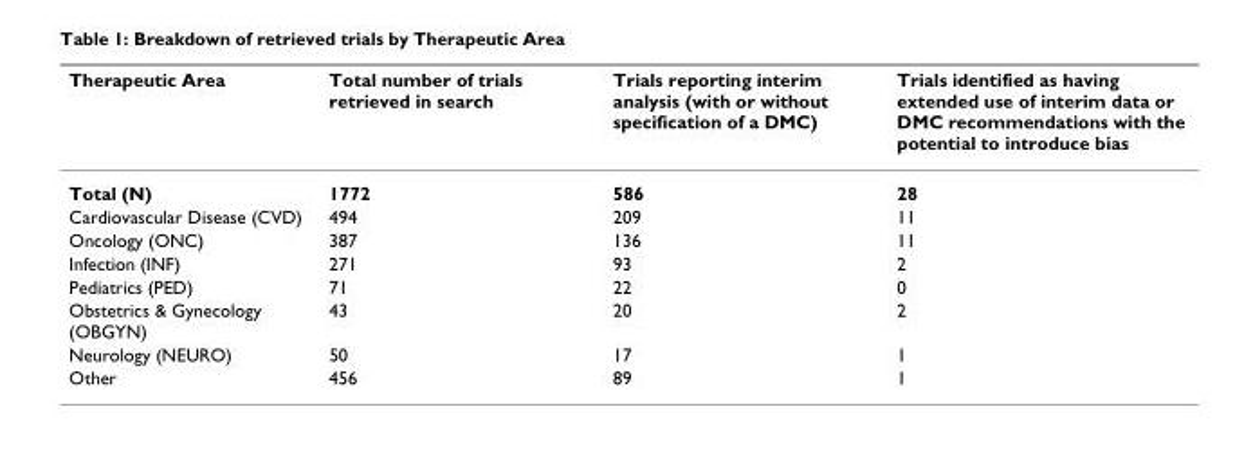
<table><thead><tr><td>Therapeutic Area</td><td>Total number of trials retrieved in search</td><td>Trials reporting interim analysis (with or without specification of a DMC)</td><td>Trials identified as having extended use of interim data or DMC recommendations with the potential to introduce bias</td></tr></thead><tbody><tr><td>Total (N)</td><td>1772</td><td>586</td><td>28</td></tr><tr><td>Cardiovascular Disease (CVD)</td><td>494</td><td>209</td><td>11</td></tr><tr><td>Oncology (ONC)</td><td>387</td><td>136</td><td>11</td></tr><tr><td>Infection (INF)</td><td>271</td><td>93</td><td>2</td></tr><tr><td>Pediatrics (PED)</td><td>71</td><td>22</td><td>0</td></tr><tr><td>Obstetrics &amp; Gynecology (OBGYN)</td><td>43</td><td>20</td><td>2</td></tr><tr><td>Neurology (NEURO)</td><td>50</td><td>17</td><td>1</td></tr><tr><td>Other</td><td>456</td><td>89</td><td>1</td></tr></tbody></table>